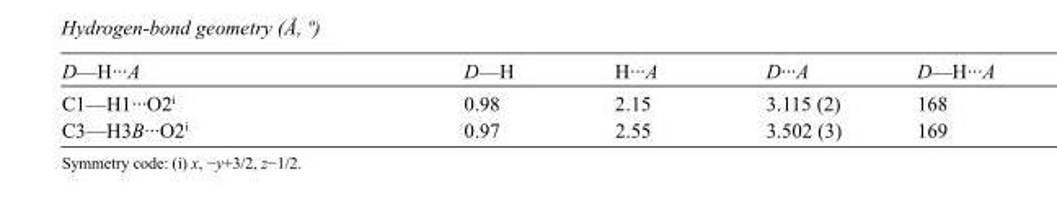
<table><tbody><tr><td>D—H···A</td><td>D—H</td><td>H···A</td><td>D···A</td><td>D—H···A</td></tr><tr><td>C1—H1···O2<sup>i</sup></td><td>0.98</td><td>2.15</td><td>3.115 (2)</td><td>168</td></tr><tr><td>C3—H3B···O2<sup>i</sup></td><td>0.97</td><td>2.55</td><td>3.502 (3)</td><td>169</td></tr></tbody></table>